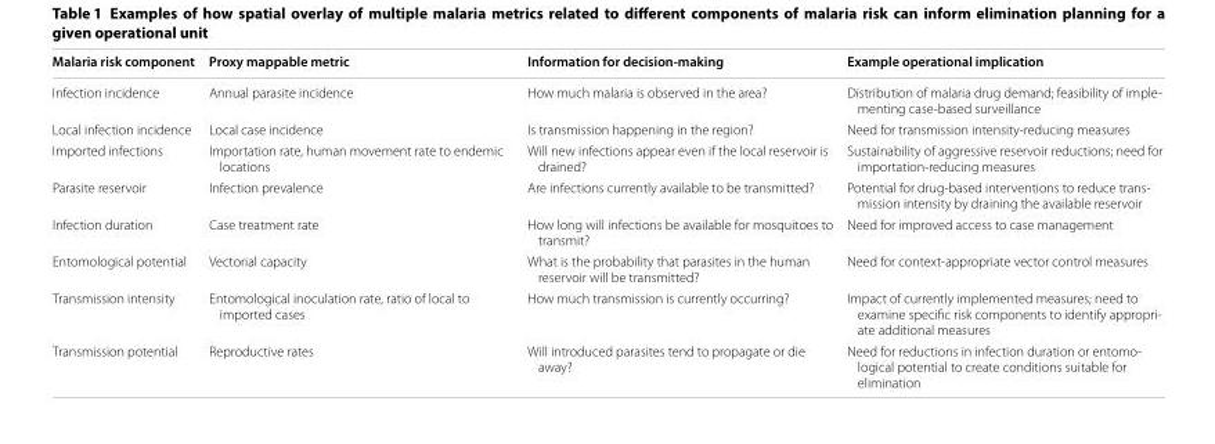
<table><thead><tr><td>Malaria risk component</td><td>Proxy mappable metric</td><td>Information for decision-making</td><td>Example operational implication</td></tr></thead><tbody><tr><td>Infection incidence</td><td>Annual parasite incidence</td><td>How much malaria is observed in the area?</td><td>Distribution of malaria drug demand; feasibility of imple- menting case-based surveillance</td></tr><tr><td>Local infection incidence</td><td>Local case incidence</td><td>Is transmission happening in the region?</td><td>Need for transmission intensity-reducing measures</td></tr><tr><td>Imported infections</td><td>Importation rate, human movement rate to endemic locations</td><td>Will new infections appear even if the local reservoir is drained?</td><td>Sustainability of aggressive reservoir reductions; need for importation-reducing measures</td></tr><tr><td>Parasite reservoir</td><td>Infection prevalence</td><td>Are infections currently available to be transmitted?</td><td>Potential for drug-based interventions to reduce trans- mission intensity by draining the available reservoir</td></tr><tr><td>Infection duration</td><td>Case treatment rate</td><td>How long will infections be available for mosquitoes to transmit?</td><td>Need for improved access to case management</td></tr><tr><td>Entomological potential</td><td>Vectorial capacity</td><td>What is the probability that parasites in the human reservoir will be transmitted?</td><td>Need for context-appropriate vector control measures</td></tr><tr><td>Transmission intensity</td><td>Entomological inoculation rate, ratio of local to imported cases</td><td>How much transmission is currently occurring?</td><td>Impact of currently implemented measures; need to examine specific risk components to identify appropri- ate additional measures</td></tr><tr><td>Transmission potential</td><td>Reproductive rates</td><td>Will introduced parasites tend to propagate or die away?</td><td>Need for reductions in infection duration or entomo- logical potential to create conditions suitable for elimination</td></tr></tbody></table>